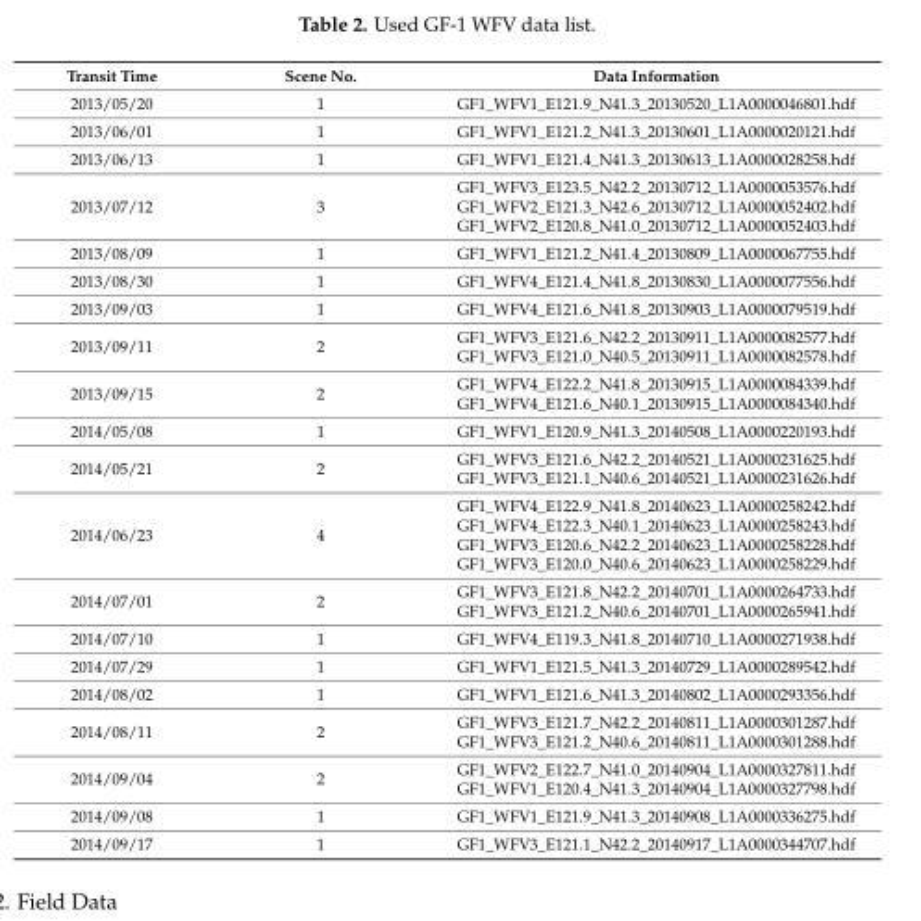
<table><thead><tr><td>Transit Time</td><td>Scene No.</td><td>Data Information</td></tr></thead><tbody><tr><td>2013/05/20</td><td>1</td><td>GF1_WFV1_E121.9_N41.3_20130520_L1A0000046801.hdf</td></tr><tr><td>2013/06/01</td><td>1</td><td>GF1_WFV1_E121.2_N41.3_20130601_L1A0000020121.hdf</td></tr><tr><td>2013/06/13</td><td>1</td><td>GF1_WFV1_E121.4_N41.3_20130613_L1A0000028258.hdf</td></tr><tr><td>2013/07/12</td><td>3</td><td>GF1_WFV3_E123.5_N42.2_20130712_L1A0000053576.hdf GF1_WFV2_E121.3_N42.6_20130712_L1A0000052402.hdf GF1_WFV2_E120.8_N41.0_20130712_L1A0000052403.hdf</td></tr><tr><td>2013/08/09</td><td>1</td><td>GF1_WFV1_E121.2_N41.4_20130809_L1A0000067755.hdf</td></tr><tr><td>2013/08/30</td><td>1</td><td>GF1_WFV4_E121.4_N41.8_20130830_L1A0000077556.hdf</td></tr><tr><td>2013/09/03</td><td>1</td><td>GF1_WFV4_E121.6_N41.8_20130903_L1A0000079519.hdf</td></tr><tr><td>2013/09/11</td><td>2</td><td>GF1_WFV3_E121.6_N42.2_20130911_L1A0000082577.hdf GF1_WFV3_E121.0_N40.5_20130911_L1A0000082578.hdf</td></tr><tr><td>2013/09/15</td><td>2</td><td>GF1_WFV4_E122.2_N41.8_20130915_L1A0000084339.hdf GF1_WFV4_E121.6_N40.1_20130915_L1A0000084340.hdf</td></tr><tr><td>2014/05/08</td><td>1</td><td>GF1_WFV1_E120.9_N41.3_20140508_L1A0000220193.hdf</td></tr><tr><td>2014/05/21</td><td>2</td><td>GF1_WFV3_E121.6_N42.2_20140521_L1A0000231625.hdf GF1_WFV3_E121.1_N40.6_20140521_L1A0000231626.hdf</td></tr><tr><td>2014/06/23</td><td>4</td><td>GF1_WFV4_E122.9_N41.8_20140623_L1A0000258242.hdf GF1_WFV4_E122.3_N40.1_20140623_L1A0000258243.hdf GF1_WFV3_E120.6_N42.2_20140623_L1A0000258228.hdf GF1_WFV3_E120.0_N40.6_20140623_L1A0000258229.hdf</td></tr><tr><td>2014/07/01</td><td>2</td><td>GF1_WFV3_E121.8_N42.2_20140701_L1A0000264733.hdf GF1_WFV3_E121.2_N40.6_20140701_L1A0000265941.hdf</td></tr><tr><td>2014/07/10</td><td>1</td><td>GF1_WFV4_E119.3_N41.8_20140710_L1A0000271938.hdf</td></tr><tr><td>2014/07/29</td><td>1</td><td>GF1_WFV1_E121.5_N41.3_20140729_L1A0000289542.hdf</td></tr><tr><td>2014/08/02</td><td>1</td><td>GF1_WFV1_E121.6_N41.3_20140802_L1A0000293356.hdf</td></tr><tr><td>2014/08/11</td><td>2</td><td>GF1_WFV3_E121.7_N42.2_20140811_L1A0000301287.hdf GF1_WFV3_E121.2_N40.6_20140811_L1A0000301288.hdf</td></tr><tr><td>2014/09/04</td><td>2</td><td>GF1_WFV2_E122.7_N41.0_20140904_L1A0000327811.hdf GF1_WFV1_E120.4_N41.3_20140904_L1A0000327798.hdf</td></tr><tr><td>2014/09/08</td><td>1</td><td>GF1_WFV1_E121.9_N41.3_20140908_L1A0000336275.hdf</td></tr><tr><td>2014/09/17</td><td>1</td><td>GF1_WFV3_E121.1_N42.2_20140917_L1A0000344707.hdf</td></tr></tbody></table>